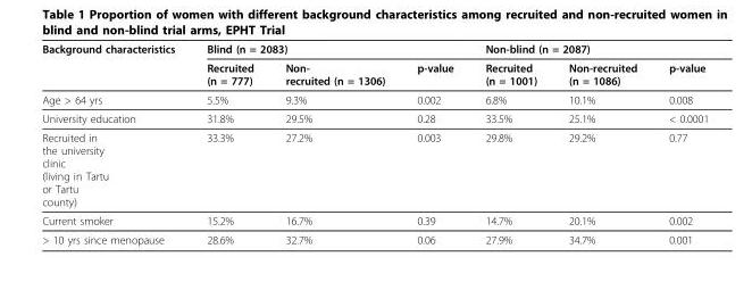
<table><thead><tr><td rowspan="2">Background characteristics</td><td colspan="3">Blind (n = 2083)</td><td colspan="3">Non-blind (n = 2087)</td></tr><tr><td>Recruited (n = 777)</td><td>Non- recruited (n = 1306)</td><td>p-value</td><td>Recruited (n = 1001)</td><td>Non-recruited (n = 1086)</td><td>p-value</td></tr></thead><tbody><tr><td>Age &gt; 64 yrs</td><td>5.5%</td><td>9.3%</td><td>0.002</td><td>6.8%</td><td>10.1%</td><td>0.008</td></tr><tr><td>University education</td><td>31.8%</td><td>29.5%</td><td>0.28</td><td>33.5%</td><td>25.1%</td><td>&lt; 0.0001</td></tr><tr><td>Recruited in the university clinic (living in Tartu or Tartu county)</td><td>33.3%</td><td>27.2%</td><td>0.003</td><td>29.8%</td><td>29.2%</td><td>0.77</td></tr><tr><td>Current smoker</td><td>15.2%</td><td>16.7%</td><td>0.39</td><td>14.7%</td><td>20.1%</td><td>0.002</td></tr><tr><td>&gt; 10 yrs since menopause</td><td>28.6%</td><td>32.7%</td><td>0.06</td><td>27.9%</td><td>34.7%</td><td>0.001</td></tr></tbody></table>